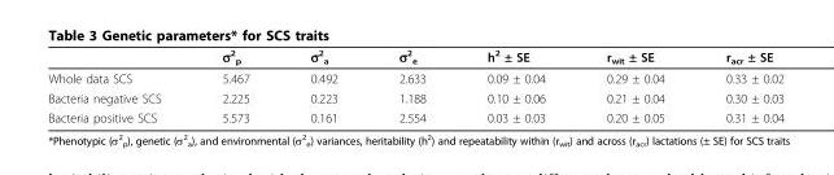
<table><thead><tr><td></td><td>σ<sup>2</sup> <sub>p</sub></td><td>σ<sup>2</sup> <sub>a</sub></td><td>σ<sup>2</sup> <sub>e</sub></td><td>h<sup>2</sup> ± SE</td><td>r<sub>wit</sub> ± SE</td><td>r<sub>acr</sub> ± SE</td></tr></thead><tbody><tr><td>Whole data SCS</td><td>5.467</td><td>0.492</td><td>2.633</td><td>0.09 ± 0.04</td><td>0.29 ± 0.04</td><td>0.33 ± 0.02</td></tr><tr><td>Bacteria negative SCS</td><td>2.225</td><td>0.223</td><td>1.188</td><td>0.10 ± 0.06</td><td>0.21 ± 0.04</td><td>0.30 ± 0.03</td></tr><tr><td>Bacteria positive SCS</td><td>5.573</td><td>0.161</td><td>2.554</td><td>0.03 ± 0.03</td><td>0.20 ± 0.05</td><td>0.31 ± 0.04</td></tr></tbody></table>